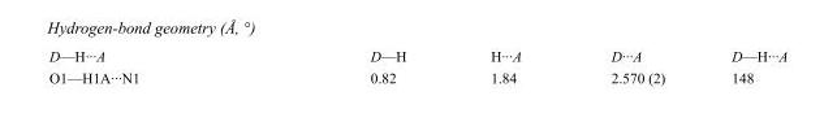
<table><tbody><tr><td>D—H···A</td><td>D—H</td><td>H···A</td><td>D···A</td><td>D—H···A</td></tr><tr><td>O1—H1A···N1</td><td>0.82</td><td>1.84</td><td>2.570 (2)</td><td>148</td></tr></tbody></table>